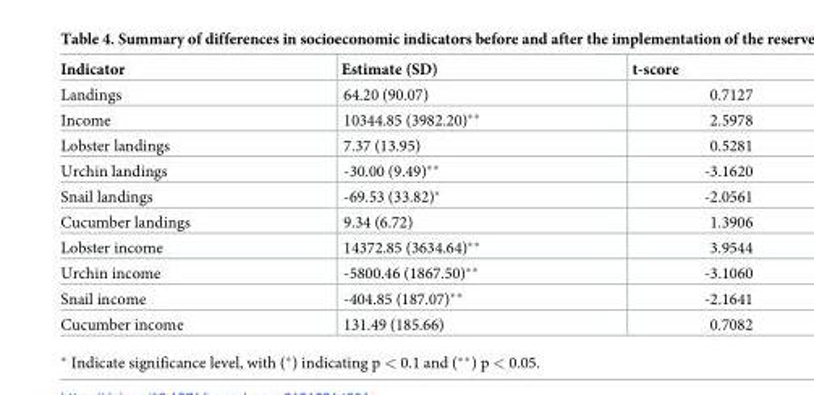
<table><thead><tr><td>Indicator</td><td>Estimate (SD)</td><td>t-score</td></tr></thead><tbody><tr><td>Landings</td><td>64.20 (90.07)</td><td>0.7127</td></tr><tr><td>Income</td><td>10344.85 (3982.20)**</td><td>2.5978</td></tr><tr><td>Lobster landings</td><td>7.37 (13.95)</td><td>0.5281</td></tr><tr><td>Urchin landings</td><td>-30.00 (9.49)**</td><td>-3.1620</td></tr><tr><td>Snail landings</td><td>-69.53 (33.82)*</td><td>-2.0561</td></tr><tr><td>Cucumber landings</td><td>9.34 (6.72)</td><td>1.3906</td></tr><tr><td>Lobster income</td><td>14372.85 (3634.64)**</td><td>3.9544</td></tr><tr><td>Urchin income</td><td>-5800.46 (1867.50)**</td><td>-3.1060</td></tr><tr><td>Snail income</td><td>-404.85 (187.07)**</td><td>-2.1641</td></tr><tr><td>Cucumber income</td><td>131.49 (185.66)</td><td>0.7082</td></tr></tbody></table>